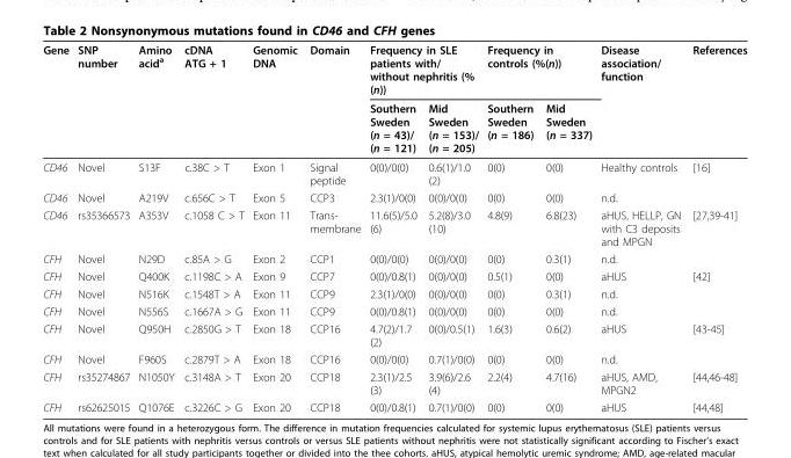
<table><thead><tr><td rowspan="2">Gene</td><td rowspan="2">SNP number</td><td rowspan="2">Amino acid<sup>a</sup></td><td rowspan="2">cDNA ATG + 1</td><td rowspan="2">Genomic DNA</td><td rowspan="2">Domain</td><td colspan="2">Frequency in SLE patients with/ without nephritis (% (n))</td><td colspan="2">Frequency in controls (%(n))</td><td rowspan="2">Disease association/ function</td><td rowspan="2">References</td></tr><tr><td>Southern Sweden (n = 43)/ (n = 121)</td><td>Mid Sweden (n = 153)/ (n = 205)</td><td>Southern Sweden (n = 186)</td><td>Mid Sweden (n = 337)</td></tr></thead><tbody><tr><td>CD46</td><td>Novel</td><td>S13F</td><td>c.38C &gt; T</td><td>Exon 1</td><td>Signal peptide</td><td>0(0)/0(0)</td><td>0.6(1)/1.0 (2)</td><td>0(0)</td><td>0(0)</td><td>Healthy controls</td><td>[16]</td></tr><tr><td>CD46</td><td>Novel</td><td>A219V</td><td>c.656C &gt; T</td><td>Exon 5</td><td>CCP3</td><td>2.3(1)/0(0)</td><td>0(0)/0(0)</td><td>0(0)</td><td>0(0)</td><td>n.d.</td><td></td></tr><tr><td>CD46</td><td>rs35366573</td><td>A353V</td><td>c.1058 C &gt; T</td><td>Exon 11</td><td>Trans- membrane</td><td>11.6(5)/5.0 (6)</td><td>5.2(8)/3.0 (10)</td><td>4.8(9)</td><td>6.8(23)</td><td>aHUS, HELLP, GN with C3 deposits and MPGN</td><td>[27,39-41]</td></tr><tr><td>CFH</td><td>Novel</td><td>N29D</td><td>c.85A &gt; G</td><td>Exon 2</td><td>CCP1</td><td>0(0)/0(0)</td><td>0(0)/0(0)</td><td>0(0)</td><td>0.3(1)</td><td>n.d.</td><td></td></tr><tr><td>CFH</td><td>Novel</td><td>Q400K</td><td>c.1198C &gt; A</td><td>Exon 9</td><td>CCP7</td><td>0(0)/0.8(1)</td><td>0(0)/0(0)</td><td>0.5(1)</td><td>0(0)</td><td>aHUS</td><td>[42]</td></tr><tr><td>CFH</td><td>Novel</td><td>N516K</td><td>c.1548T &gt; A</td><td>Exon 11</td><td>CCP9</td><td>2.3(1)/0(0)</td><td>0(0)/0(0)</td><td>0(0)</td><td>0.3(1)</td><td>n.d.</td><td></td></tr><tr><td>CFH</td><td>Novel</td><td>N556S</td><td>c.1667A &gt; G</td><td>Exon 11</td><td>CCP9</td><td>0(0)/0.8(1)</td><td>0(0)/0(0)</td><td>0(0)</td><td>0(0)</td><td>n.d.</td><td></td></tr><tr><td>CFH</td><td>Novel</td><td>Q950H</td><td>c.2850G &gt; T</td><td>Exon 18</td><td>CCP16</td><td>4.7(2)/1.7 (2)</td><td>0(0)/0.5(1)</td><td>1.6(3)</td><td>0.6(2)</td><td>aHUS</td><td>[43-45]</td></tr><tr><td>CFH</td><td>Novel</td><td>F960S</td><td>c.2879T &gt; A</td><td>Exon 18</td><td>CCP16</td><td>0(0)/0(0)</td><td>0.7(1)/0(0)</td><td>0(0)</td><td>0(0)</td><td>n.d.</td><td></td></tr><tr><td>CFH</td><td>rs35274867</td><td>N1050Y</td><td>c.3148A &gt; T</td><td>Exon 20</td><td>CCP18</td><td>2.3(1)/2.5 (3)</td><td>3.9(6)/2.6 (4)</td><td>2.2(4)</td><td>4.7(16)</td><td>aHUS, AMD, MPGN2</td><td>[44,46-48]</td></tr><tr><td>CFH</td><td>rs62625015</td><td>Q1076E</td><td>c.3226C &gt; G</td><td>Exon 20</td><td>CCP18</td><td>0(0)/0.8(1)</td><td>0.7(1)/0(0)</td><td>0(0)</td><td>0(0)</td><td>aHUS</td><td>[44,48]</td></tr></tbody></table>